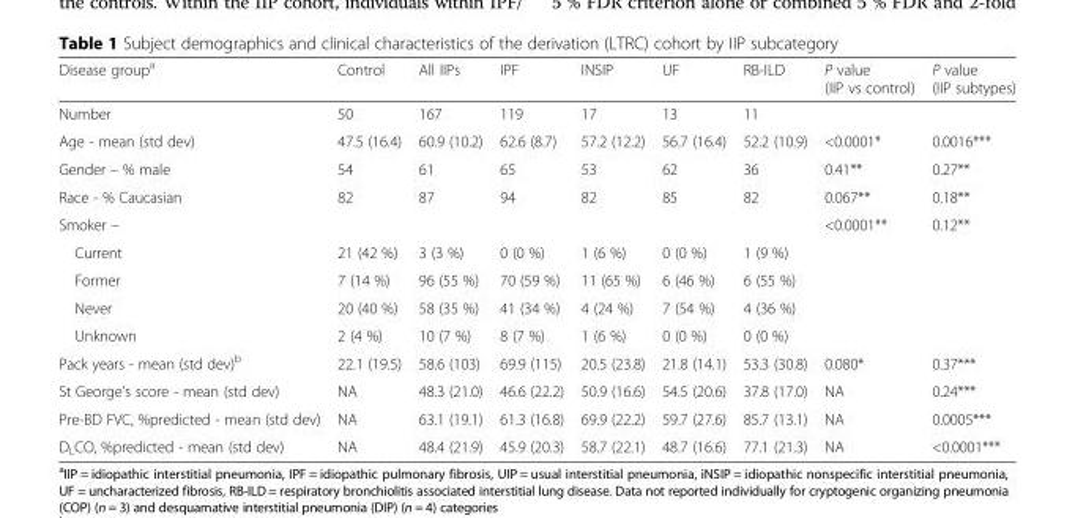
<table><thead><tr><td>Disease group<sup>a</sup></td><td>Control</td><td>All IIPs</td><td>IPF</td><td>INSIP</td><td>UF</td><td>RB-ILD</td><td>P value (IIP vs control)</td><td>P value (IIP subtypes)</td></tr></thead><tbody><tr><td>Number</td><td>50</td><td>167</td><td>119</td><td>17</td><td>13</td><td>11</td><td></td><td></td></tr><tr><td>Age - mean (std dev)</td><td>47.5 (16.4)</td><td>60.9 (10.2)</td><td>62.6 (8.7)</td><td>57.2 (12.2)</td><td>56.7 (16.4)</td><td>52.2 (10.9)</td><td>&lt;0.0001*</td><td>0.0016***</td></tr><tr><td>Gender – % male</td><td>54</td><td>61</td><td>65</td><td>53</td><td>62</td><td>36</td><td>0.41**</td><td>0.27**</td></tr><tr><td>Race - % Caucasian</td><td>82</td><td>87</td><td>94</td><td>82</td><td>85</td><td>82</td><td>0.067**</td><td>0.18**</td></tr><tr><td colspan="7">Smoker –</td><td rowspan="5">&lt;0.0001**</td><td rowspan="5">0.12**</td></tr><tr><td>Current</td><td>21 (42 %)</td><td>3 (3 %)</td><td>0 (0 %)</td><td>1 (6 %)</td><td>0 (0 %)</td><td>1 (9 %)</td></tr><tr><td>Former</td><td>7 (14 %)</td><td>96 (55 %)</td><td>70 (59 %)</td><td>11 (65 %)</td><td>6 (46 %)</td><td>6 (55 %)</td></tr><tr><td>Never</td><td>20 (40 %)</td><td>58 (35 %)</td><td>41 (34 %)</td><td>4 (24 %)</td><td>7 (54 %)</td><td>4 (36 %)</td></tr><tr><td>Unknown</td><td>2 (4 %)</td><td>10 (7 %)</td><td>8 (7 %)</td><td>1 (6 %)</td><td>0 (0 %)</td><td>0 (0 %)</td></tr><tr><td>Pack years - mean (std dev)<sup>b</sup></td><td>22.1 (19.5)</td><td>58.6 (103)</td><td>69.9 (115)</td><td>20.5 (23.8)</td><td>21.8 (14.1)</td><td>53.3 (30.8)</td><td>0.080*</td><td>0.37***</td></tr><tr><td>St George’s score - mean (std dev)</td><td>NA</td><td>48.3 (21.0)</td><td>46.6 (22.2)</td><td>50.9 (16.6)</td><td>54.5 (20.6)</td><td>37.8 (17.0)</td><td>NA</td><td>0.24***</td></tr><tr><td>Pre-BD FVC, %predicted - mean (std dev)</td><td>NA</td><td>63.1 (19.1)</td><td>61.3 (16.8)</td><td>69.9 (22.2)</td><td>59.7 (27.6)</td><td>85.7 (13.1)</td><td>NA</td><td>0.0005***</td></tr><tr><td>D<sub>L</sub>CO, %predicted - mean (std dev)</td><td>NA</td><td>48.4 (21.9)</td><td>45.9 (20.3)</td><td>58.7 (22.1)</td><td>48.7 (16.6)</td><td>77.1 (21.3)</td><td>NA</td><td>&lt;0.0001***</td></tr></tbody></table>